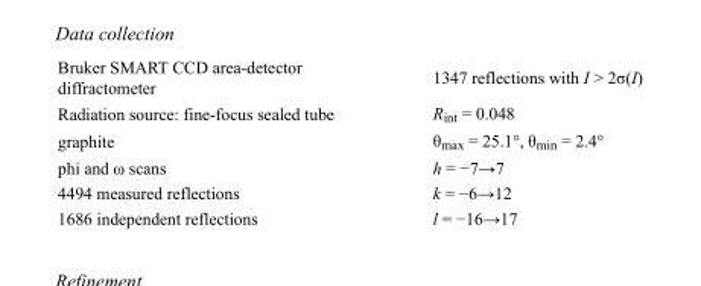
<table><tbody><tr><td>Bruker SMART CCD area-detector diffractometer</td><td>1347 reflections with I &gt; 2σ(I)</td></tr><tr><td>Radiation source: fine-focus sealed tube</td><td>R<sub>int</sub> = 0.048</td></tr><tr><td>graphite</td><td>θ<sub>max</sub> = 25.1°, θ<sub>min</sub> = 2.4°</td></tr><tr><td>phi and ω scans</td><td>h = −7→7</td></tr><tr><td>4494 measured reflections</td><td>k = −6→12</td></tr><tr><td>1686 independent reflections</td><td>l = −16→17</td></tr></tbody></table>